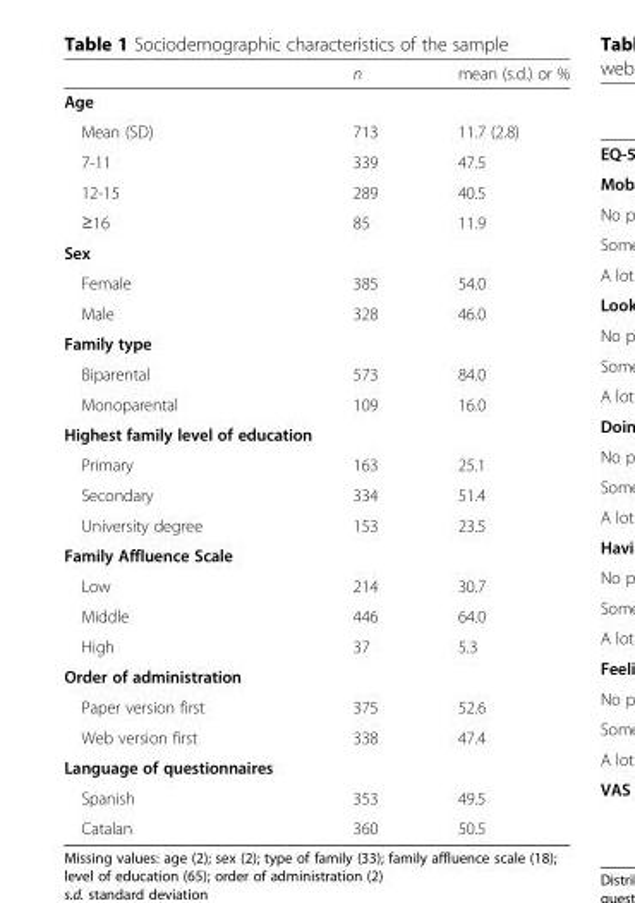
<table><thead><tr><td></td><td>n</td><td>mean (s.d.) or %</td></tr></thead><tbody><tr><td colspan="3">Age</td></tr><tr><td>Mean (SD)</td><td>713</td><td>11.7 (2.8)</td></tr><tr><td>7-11</td><td>339</td><td>47.5</td></tr><tr><td>12-15</td><td>289</td><td>40.5</td></tr><tr><td>≥16</td><td>85</td><td>11.9</td></tr><tr><td colspan="3">Sex</td></tr><tr><td>Female</td><td>385</td><td>54.0</td></tr><tr><td>Male</td><td>328</td><td>46.0</td></tr><tr><td colspan="3">Family type</td></tr><tr><td>Biparental</td><td>573</td><td>84.0</td></tr><tr><td>Monoparental</td><td>109</td><td>16.0</td></tr><tr><td colspan="3">Highest family level of education</td></tr><tr><td>Primary</td><td>163</td><td>25.1</td></tr><tr><td>Secondary</td><td>334</td><td>51.4</td></tr><tr><td>University degree</td><td>153</td><td>23.5</td></tr><tr><td colspan="3">Family Affluence Scale</td></tr><tr><td>Low</td><td>214</td><td>30.7</td></tr><tr><td>Middle</td><td>446</td><td>64.0</td></tr><tr><td>High</td><td>37</td><td>5.3</td></tr><tr><td colspan="3">Order of administration</td></tr><tr><td>Paper version first</td><td>375</td><td>52.6</td></tr><tr><td>Web version first</td><td>338</td><td>47.4</td></tr><tr><td colspan="3">Language of questionnaires</td></tr><tr><td>Spanish</td><td>353</td><td>49.5</td></tr><tr><td>Catalan</td><td>360</td><td>50.5</td></tr></tbody></table>